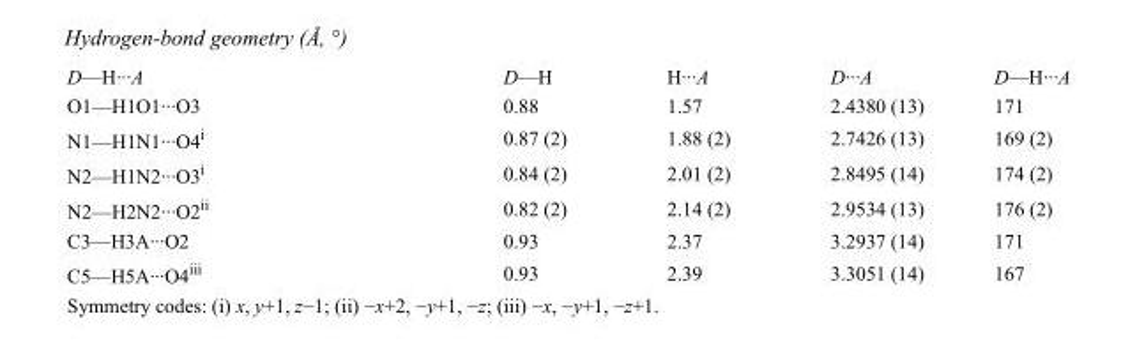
<table><tbody><tr><td>D—H···A</td><td>D—H</td><td>H···A</td><td>D···A</td><td>D—H···A</td></tr><tr><td>O1—H1O1···O3</td><td>0.88</td><td>1.57</td><td>2.4380 (13)</td><td>171</td></tr><tr><td>N1—H1N1···O4<sup>i</sup></td><td>0.87 (2)</td><td>1.88 (2)</td><td>2.7426 (13)</td><td>169 (2)</td></tr><tr><td>N2—H1N2···O3<sup>i</sup></td><td>0.84 (2)</td><td>2.01 (2)</td><td>2.8495 (14)</td><td>174 (2)</td></tr><tr><td>N2—H2N2···O2<sup>ii</sup></td><td>0.82 (2)</td><td>2.14 (2)</td><td>2.9534 (13)</td><td>176 (2)</td></tr><tr><td>C3—H3A···O2</td><td>0.93</td><td>2.37</td><td>3.2937 (14)</td><td>171</td></tr><tr><td>C5—H5A···O4<sup>iii</sup></td><td>0.93</td><td>2.39</td><td>3.3051 (14)</td><td>167</td></tr></tbody></table>